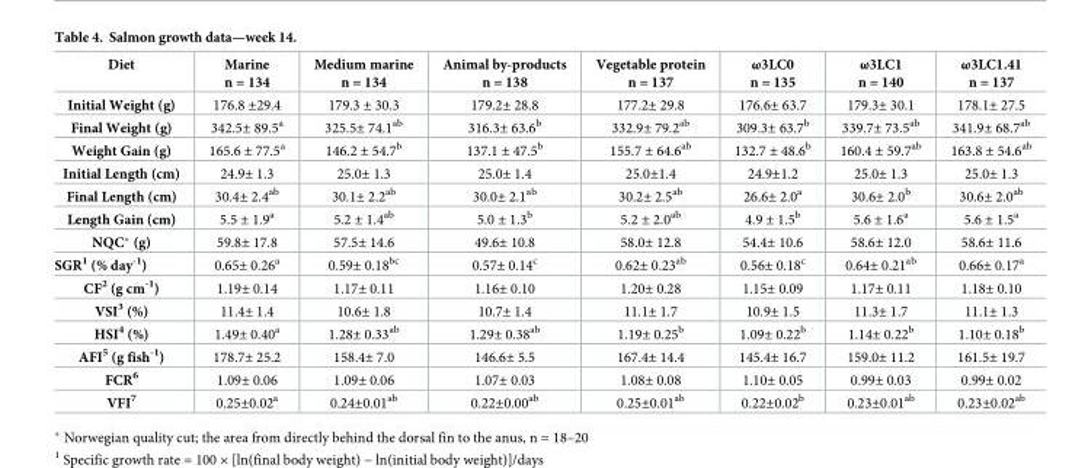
<table><thead><tr><td>Diet</td><td>Marine n = 134</td><td>Medium marine n = 134</td><td>Animal by-products n = 138</td><td>Vegetable protein n = 137</td><td>ω3LC0 n = 135</td><td>ω3LC1 n = 140</td><td>ω3LC1.41 n = 137</td></tr></thead><tbody><tr><td>Initial Weight (g)</td><td>176.8 ±29.4</td><td>179.3 ± 30.3</td><td>179.2± 28.8</td><td>177.2± 29.8</td><td>176.6± 63.7</td><td>179.3± 30.1</td><td>178.1± 27.5</td></tr><tr><td>Final Weight (g)</td><td>342.5± 89.5<sup>a</sup></td><td>325.5± 74.1<sup>ab</sup></td><td>316.3± 63.6<sup>b</sup></td><td>332.9± 79.2<sup>ab</sup></td><td>309.3± 63.7<sup>b</sup></td><td>339.7± 73.5<sup>ab</sup></td><td>341.9± 68.7<sup>ab</sup></td></tr><tr><td>Weight Gain (g)</td><td>165.6 ± 77.5<sup>a</sup></td><td>146.2 ± 54.7<sup>b</sup></td><td>137.1 ± 47.5<sup>b</sup></td><td>155.7 ± 64.6<sup>ab</sup></td><td>132.7 ± 48.6<sup>b</sup></td><td>160.4 ± 59.7<sup>ab</sup></td><td>163.8 ± 54.6<sup>ab</sup></td></tr><tr><td>Initial Length (cm)</td><td>24.9± 1.3</td><td>25.0± 1.3</td><td>25.0± 1.4</td><td>25.0±1.4</td><td>24.9±1.2</td><td>25.0± 1.3</td><td>25.0± 1.3</td></tr><tr><td>Final Length (cm)</td><td>30.4± 2.4<sup>ab</sup></td><td>30.1± 2.2<sup>ab</sup></td><td>30.0± 2.1<sup>ab</sup></td><td>30.2± 2.5<sup>ab</sup></td><td>26.6± 2.0<sup>a</sup></td><td>30.6± 2.0<sup>b</sup></td><td>30.6± 2.0<sup>ab</sup></td></tr><tr><td>Length Gain (cm)</td><td>5.5 ± 1.9<sup>a</sup></td><td>5.2 ± 1.4<sup>ab</sup></td><td>5.0 ± 1.3<sup>b</sup></td><td>5.2 ± 2.0<sup>ab</sup></td><td>4.9 ± 1.5<sup>b</sup></td><td>5.6 ± 1.6<sup>a</sup></td><td>5.6 ± 1.5<sup>a</sup></td></tr><tr><td>NQC* (g)</td><td>59.8± 17.8</td><td>57.5± 14.6</td><td>49.6± 10.8</td><td>58.0± 12.8</td><td>54.4± 10.6</td><td>58.6± 12.0</td><td>58.6± 11.6</td></tr><tr><td>SGR<sup>1</sup> (% day<sup>-1</sup>)</td><td>0.65± 0.26<sup>a</sup></td><td>0.59± 0.18<sup>bc</sup></td><td>0.57± 0.14<sup>c</sup></td><td>0.62± 0.23<sup>ab</sup></td><td>0.56± 0.18<sup>c</sup></td><td>0.64± 0.21<sup>ab</sup></td><td>0.66± 0.17<sup>a</sup></td></tr><tr><td>CF<sup>2</sup> (g cm<sup>-1</sup>)</td><td>1.19± 0.14</td><td>1.17± 0.11</td><td>1.16± 0.10</td><td>1.20± 0.28</td><td>1.15± 0.09</td><td>1.17± 0.11</td><td>1.18± 0.10</td></tr><tr><td>VSI<sup>3</sup> (%)</td><td>11.4± 1.4</td><td>10.6± 1.8</td><td>10.7± 1.4</td><td>11.1± 1.7</td><td>10.9± 1.5</td><td>11.3± 1.7</td><td>11.1± 1.3</td></tr><tr><td>HSI<sup>4</sup> (%)</td><td>1.49± 0.40<sup>a</sup></td><td>1.28± 0.33<sup>ab</sup></td><td>1.29± 0.38<sup>ab</sup></td><td>1.19± 0.25<sup>b</sup></td><td>1.09± 0.22<sup>b</sup></td><td>1.14± 0.22<sup>b</sup></td><td>1.10± 0.18<sup>b</sup></td></tr><tr><td>AFI<sup>5</sup> (g fish<sup>-1</sup>)</td><td>178.7± 25.2</td><td>158.4± 7.0</td><td>146.6± 5.5</td><td>167.4± 14.4</td><td>145.4± 16.7</td><td>159.0± 11.2</td><td>161.5± 19.7</td></tr><tr><td>FCR<sup>6</sup></td><td>1.09± 0.06</td><td>1.09± 0.06</td><td>1.07± 0.03</td><td>1.08± 0.08</td><td>1.10± 0.05</td><td>0.99± 0.03</td><td>0.99± 0.02</td></tr><tr><td>VFI<sup>7</sup></td><td>0.25±0.02<sup>a</sup></td><td>0.24±0.01<sup>ab</sup></td><td>0.22±0.00<sup>ab</sup></td><td>0.25±0.01<sup>ab</sup></td><td>0.22±0.02<sup>b</sup></td><td>0.23±0.01<sup>ab</sup></td><td>0.23±0.02<sup>ab</sup></td></tr></tbody></table>